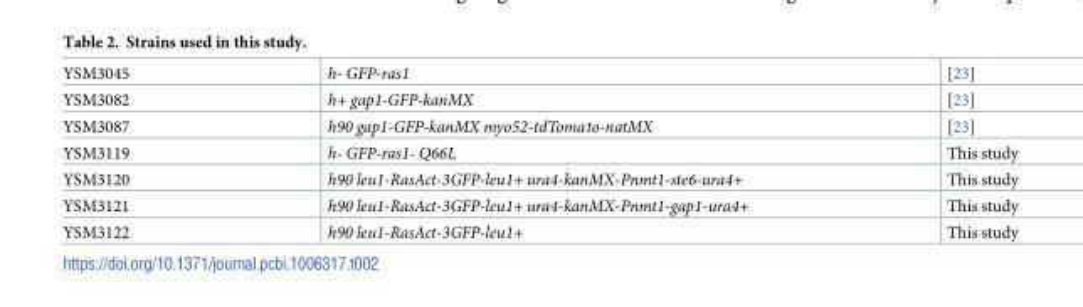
<table><tbody><tr><td>YSM3045</td><td>h- GFP-ras1</td><td>[23]</td></tr><tr><td>YSM3082</td><td>h+ gap1-GFP-kanMX</td><td>[23]</td></tr><tr><td>YSM3087</td><td>h90 gap1-GFP-kanMX myo52-tdTomato-natMX</td><td>[23]</td></tr><tr><td>YSM3119</td><td>h- GFP-ras1- Q66L</td><td>This study</td></tr><tr><td>YSM3120</td><td>h90 leu1-RasAct-3GFP-leu1+ ura4-kanMX-Pnmt1-ste6-ura4+</td><td>This study</td></tr><tr><td>YSM3121</td><td>h90 leu1-RasAct-3GFP-leu1+ ura4-kanMX-Pnmt1-gap1-ura4+</td><td>This study</td></tr><tr><td>YSM3122</td><td>h90 leu1-RasAct-3GFP-leu1+</td><td>This study</td></tr></tbody></table>